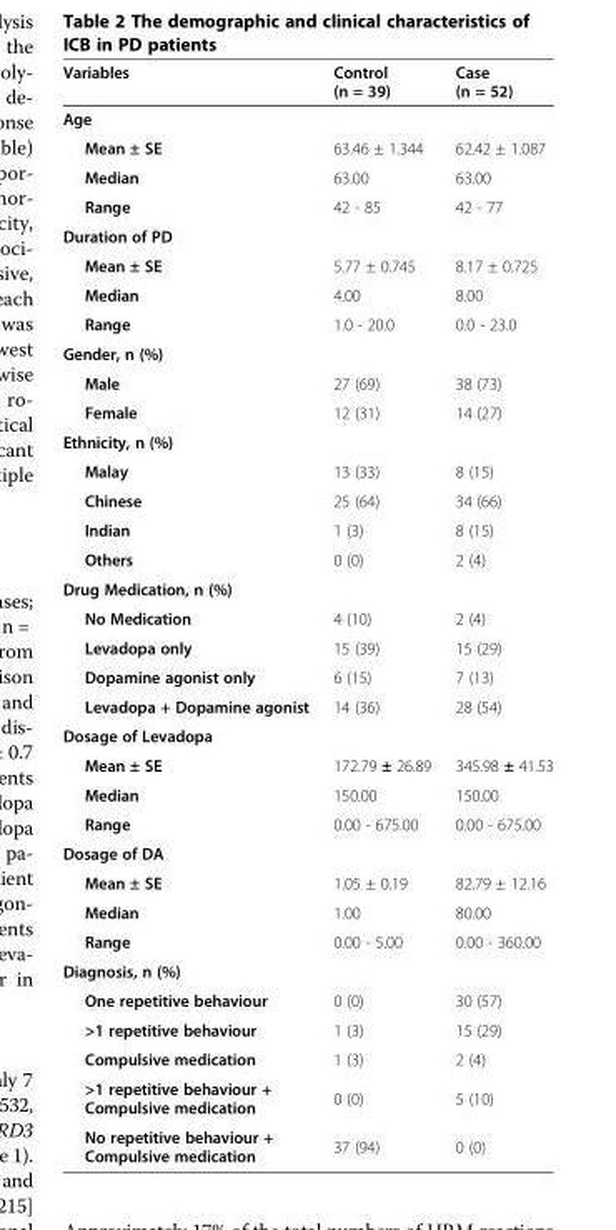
<table><thead><tr><td>Variables</td><td>Control (n = 39)</td><td>Case (n = 52)</td></tr></thead><tbody><tr><td colspan="3">Age</td></tr><tr><td>Mean ± SE</td><td>63.46 ± 1.344</td><td>62.42 ± 1.087</td></tr><tr><td>Median</td><td>63.00</td><td>63.00</td></tr><tr><td>Range</td><td>42 - 85</td><td>42 - 77</td></tr><tr><td colspan="3">Duration of PD</td></tr><tr><td>Mean ± SE</td><td>5.77 ± 0.745</td><td>8.17 ± 0.725</td></tr><tr><td>Median</td><td>4.00</td><td>8.00</td></tr><tr><td>Range</td><td>1.0 - 20.0</td><td>0.0 - 23.0</td></tr><tr><td colspan="3">Gender, n (%)</td></tr><tr><td>Male</td><td>27 (69)</td><td>38 (73)</td></tr><tr><td>Female</td><td>12 (31)</td><td>14 (27)</td></tr><tr><td colspan="3">Ethnicity, n (%)</td></tr><tr><td>Malay</td><td>13 (33)</td><td>8 (15)</td></tr><tr><td>Chinese</td><td>25 (64)</td><td>34 (66)</td></tr><tr><td>Indian</td><td>1 (3)</td><td>8 (15)</td></tr><tr><td>Others</td><td>0 (0)</td><td>2 (4)</td></tr><tr><td colspan="3">Drug Medication, n (%)</td></tr><tr><td>No Medication</td><td>4 (10)</td><td>2 (4)</td></tr><tr><td>Levadopa only</td><td>15 (39)</td><td>15 (29)</td></tr><tr><td>Dopamine agonist only</td><td>6 (15)</td><td>7 (13)</td></tr><tr><td>Levadopa + Dopamine agonist</td><td>14 (36)</td><td>28 (54)</td></tr><tr><td colspan="3">Dosage of Levadopa</td></tr><tr><td>Mean ± SE</td><td>172.79 ± 26.89</td><td>345.98 ± 41.53</td></tr><tr><td>Median</td><td>150.00</td><td>150.00</td></tr><tr><td>Range</td><td>0.00 - 675.00</td><td>0.00 - 675.00</td></tr><tr><td colspan="3">Dosage of DA</td></tr><tr><td>Mean ± SE</td><td>1.05 ± 0.19</td><td>82.79 ± 12.16</td></tr><tr><td>Median</td><td>1.00</td><td>80.00</td></tr><tr><td>Range</td><td>0.00 - 5.00</td><td>0.00 - 360.00</td></tr><tr><td colspan="3">Diagnosis, n (%)</td></tr><tr><td>One repetitive behaviour</td><td>0 (0)</td><td>30 (57)</td></tr><tr><td>&gt;1 repetitive behaviour</td><td>1 (3)</td><td>15 (29)</td></tr><tr><td>Compulsive medication</td><td>1 (3)</td><td>2 (4)</td></tr><tr><td>&gt;1 repetitive behaviour + Compulsive medication</td><td>0 (0)</td><td>5 (10)</td></tr><tr><td>No repetitive behaviour + Compulsive medication</td><td>37 (94)</td><td>0 (0)</td></tr></tbody></table>